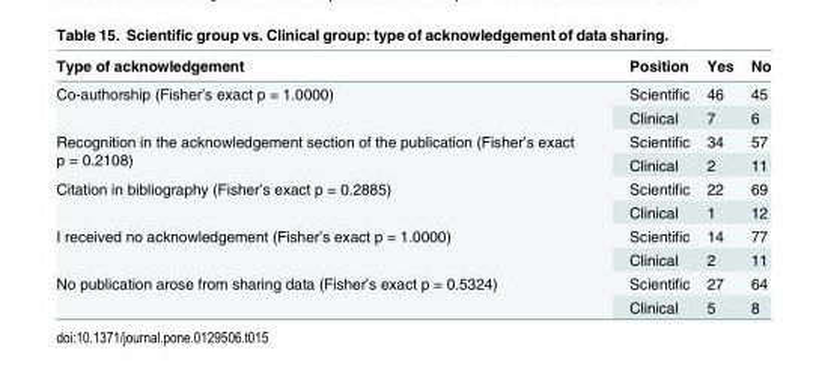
<table><thead><tr><td>Type of acknowledgement</td><td>Position</td><td>Yes</td><td>No</td></tr></thead><tbody><tr><td rowspan="2">Co-authorship (Fisher’s exact p = 1.0000)</td><td>Scientific</td><td>46</td><td>45</td></tr><tr><td>Clinical</td><td>7</td><td>6</td></tr><tr><td rowspan="2">Recognition in the acknowledgement section of the publication (Fisher’s exact p = 0.2108)</td><td>Scientific</td><td>34</td><td>57</td></tr><tr><td>Clinical</td><td>2</td><td>11</td></tr><tr><td rowspan="2">Citation in bibliography (Fisher’s exact p = 0.2885)</td><td>Scientific</td><td>22</td><td>69</td></tr><tr><td>Clinical</td><td>1</td><td>12</td></tr><tr><td rowspan="2">I received no acknowledgement (Fisher’s exact p = 1.0000)</td><td>Scientific</td><td>14</td><td>77</td></tr><tr><td>Clinical</td><td>2</td><td>11</td></tr><tr><td rowspan="2">No publication arose from sharing data (Fisher’s exact p = 0.5324)</td><td>Scientific</td><td>27</td><td>64</td></tr><tr><td>Clinical</td><td>5</td><td>8</td></tr></tbody></table>